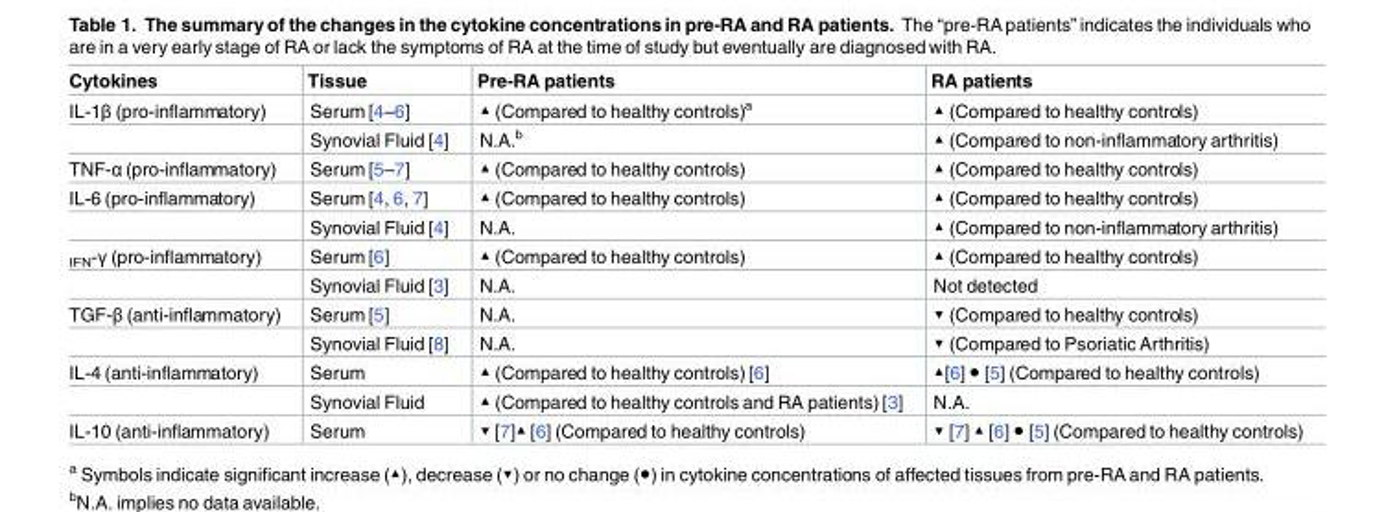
<table><thead><tr><td>Cytokines</td><td>Tissue</td><td>Pre-RA patients</td><td>RA patients</td></tr></thead><tbody><tr><td rowspan="2">IL-1β (pro-inflammatory)</td><td>Serum [4–6]</td><td>▲ (Compared to healthy controls)<sup>a</sup></td><td>▲ (Compared to healthy controls)</td></tr><tr><td>Synovial Fluid [4]</td><td>N.A.<sup>b</sup></td><td>▲ (Compared to non-inflammatory arthritis)</td></tr><tr><td>TNF-α (pro-inflammatory)</td><td>Serum [5–7]</td><td>▲ (Compared to healthy controls)</td><td>▲ (Compared to healthy controls)</td></tr><tr><td rowspan="2">IL-6 (pro-inflammatory)</td><td>Serum [4, 6, 7]</td><td>▲ (Compared to healthy controls)</td><td>▲ (Compared to healthy controls)</td></tr><tr><td>Synovial Fluid [4]</td><td>N.A.</td><td>▲ (Compared to non-inflammatory arthritis)</td></tr><tr><td rowspan="2"><sub>IFN</sub>-γ (pro-inflammatory)</td><td>Serum [6]</td><td>▲ (Compared to healthy controls)</td><td>▲ (Compared to healthy controls)</td></tr><tr><td>Synovial Fluid [3]</td><td>N.A.</td><td>Not detected</td></tr><tr><td rowspan="2">TGF-β (anti-inflammatory)</td><td>Serum [5]</td><td>N.A.</td><td>▼ (Compared to healthy controls)</td></tr><tr><td>Synovial Fluid [8]</td><td>N.A.</td><td>▼ (Compared to Psoriatic Arthritis)</td></tr><tr><td rowspan="2">IL-4 (anti-inflammatory)</td><td>Serum</td><td>▲ (Compared to healthy controls) [6]</td><td>▲[6] ● [5] (Compared to healthy controls)</td></tr><tr><td>Synovial Fluid</td><td>▲ (Compared to healthy controls and RA patients) [3]</td><td>N.A.</td></tr><tr><td>IL-10 (anti-inflammatory)</td><td>Serum</td><td>▼ [7]▲ [6] (Compared to healthy controls)</td><td>▼ [7] ▲ [6] ● [5] (Compared to healthy controls)</td></tr></tbody></table>